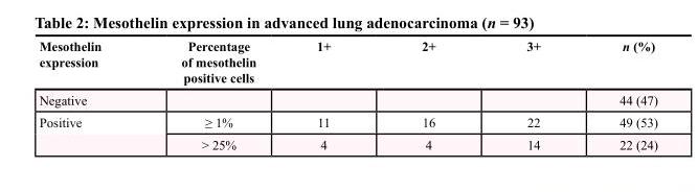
<table><thead><tr><td>Mesothelin expression</td><td>Percentage of mesothelin positive cells</td><td>1+</td><td>2+</td><td>3+</td><td>n (%)</td></tr></thead><tbody><tr><td>Negative</td><td></td><td></td><td></td><td></td><td>44 (47)</td></tr><tr><td rowspan="2">Positive</td><td>≥ 1%</td><td>11</td><td>16</td><td>22</td><td>49 (53)</td></tr><tr><td>&gt; 25%</td><td>4</td><td>4</td><td>14</td><td>22 (24)</td></tr></tbody></table>